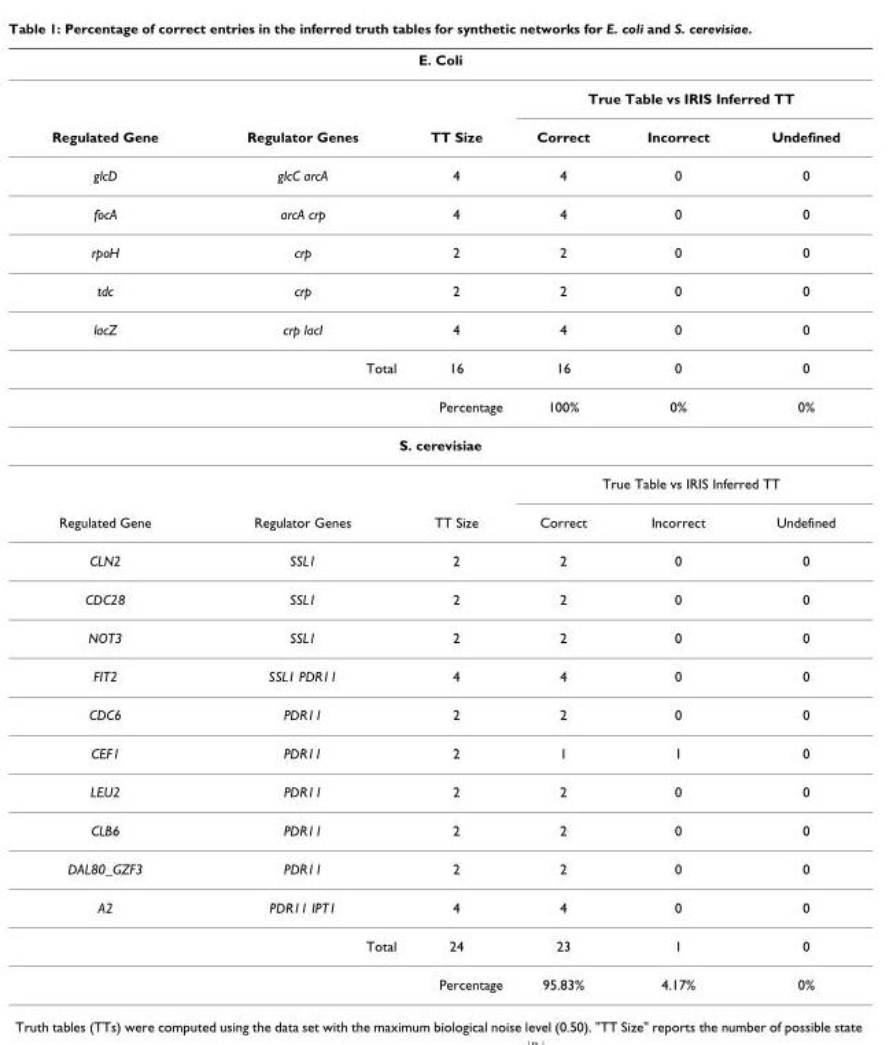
<table><thead><tr><td colspan="6">E. Coli</td></tr><tr><td rowspan="2">Regulated Gene</td><td rowspan="2">Regulator Genes</td><td rowspan="2">TT Size</td><td colspan="3">True Table vs IRIS Inferred TT</td></tr><tr><td>Correct</td><td>Incorrect</td><td>Undefined</td></tr></thead><tbody><tr><td>glcD</td><td>glcC arcA</td><td>4</td><td>4</td><td>0</td><td>0</td></tr><tr><td>focA</td><td>arcA crp</td><td>4</td><td>4</td><td>0</td><td>0</td></tr><tr><td>rpoH</td><td>crp</td><td>2</td><td>2</td><td>0</td><td>0</td></tr><tr><td>tdc</td><td>crp</td><td>2</td><td>2</td><td>0</td><td>0</td></tr><tr><td>lacZ</td><td>crp lacI</td><td>4</td><td>4</td><td>0</td><td>0</td></tr><tr><td colspan="2">Total</td><td>16</td><td>16</td><td>0</td><td>0</td></tr><tr><td colspan="3">Percentage</td><td>100%</td><td>0%</td><td>0%</td></tr><tr><td colspan="6">S. cerevisiae</td></tr><tr><td></td><td></td><td></td><td colspan="3">True Table vs IRIS Inferred TT</td></tr><tr><td>Regulated Gene</td><td>Regulator Genes</td><td>TT Size</td><td>Correct</td><td>Incorrect</td><td>Undefined</td></tr><tr><td>CLN2</td><td>SSL1</td><td>2</td><td>2</td><td>0</td><td>0</td></tr><tr><td>CDC28</td><td>SSL1</td><td>2</td><td>2</td><td>0</td><td>0</td></tr><tr><td>NOT3</td><td>SSL1</td><td>2</td><td>2</td><td>0</td><td>0</td></tr><tr><td>FIT2</td><td>SSL1 PDR11</td><td>4</td><td>4</td><td>0</td><td>0</td></tr><tr><td>CDC6</td><td>PDR11</td><td>2</td><td>2</td><td>0</td><td>0</td></tr><tr><td>CEF1</td><td>PDR11</td><td>2</td><td>1</td><td>1</td><td>0</td></tr><tr><td>LEU2</td><td>PDR11</td><td>2</td><td>2</td><td>0</td><td>0</td></tr><tr><td>CLB6</td><td>PDR11</td><td>2</td><td>2</td><td>0</td><td>0</td></tr><tr><td>DAL80_GZF3</td><td>PDR11</td><td>2</td><td>2</td><td>0</td><td>0</td></tr><tr><td>A2</td><td>PDR11 IPT1</td><td>4</td><td>4</td><td>0</td><td>0</td></tr><tr><td colspan="2">Total</td><td>24</td><td>23</td><td>1</td><td>0</td></tr><tr><td colspan="3">Percentage</td><td>95.83%</td><td>4.17%</td><td>0%</td></tr></tbody></table>